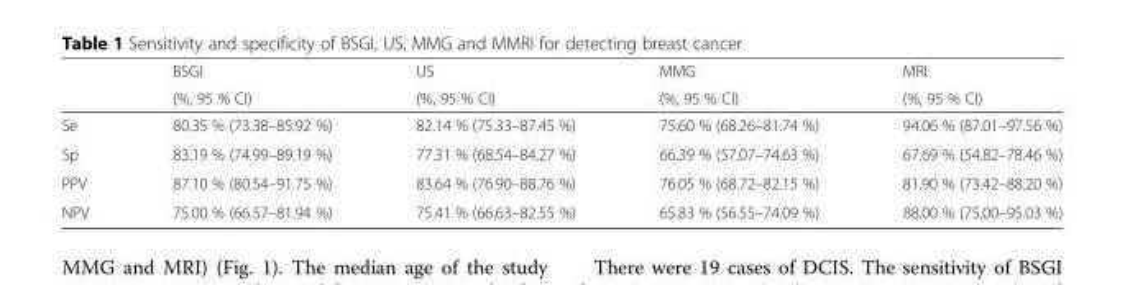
<table><thead><tr><td rowspan="2"></td><td rowspan="2">BSGI (%, 95 % CI)</td><td rowspan="2">US (%, 95 % CI)</td><td rowspan="2">MMG (%, 95 % CI)</td><td rowspan="2">MRI (%, 95 % CI)</td></tr><tr></tr></thead><tbody><tr><td>Se</td><td>80.35 % (73.38–85.92 %)</td><td>82.14 % (75.33–87.45 %)</td><td>75.60 % (68.26–81.74 %)</td><td>94.06 % (87.01–97.56 %)</td></tr><tr><td>Sp</td><td>83.19 % (74.99–89.19 %)</td><td>77.31 % (68.54–84.27 %)</td><td>66.39 % (57.07–74.63 %)</td><td>67.69 % (54.82–78.46 %)</td></tr><tr><td>PPV</td><td>87.10 % (80.54–91.75 %)</td><td>83.64 % (76.90–88.76 %)</td><td>76.05 % (68.72–82.15 %)</td><td>81.90 % (73.42–88.20 %)</td></tr><tr><td>NPV</td><td>75.00 % (66.57–81.94 %)</td><td>75.41 % (66.63–82.55 %)</td><td>65.83 % (56.55–74.09 %)</td><td>88.00 % (75.00–95.03 %)</td></tr></tbody></table>